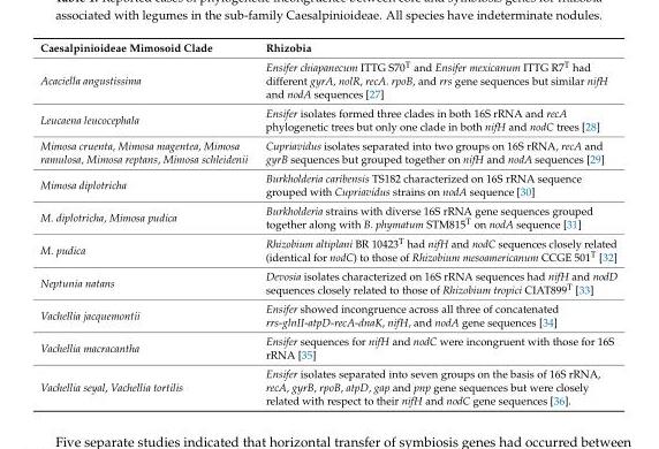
<table><thead><tr><td>Caesalpinioideae Mimosoid Clade</td><td>Rhizobia</td></tr></thead><tbody><tr><td>Acaciella angustissima</td><td>Ensifer chiapanecum ITTG S70<sup>T</sup> and Ensifer mexicanum ITTG R7<sup>T</sup> had different gyrA, nolR, recA. rpoB, and rrs gene sequences but similar nifH and nodA sequences [27]</td></tr><tr><td>Leucaena leucocephala</td><td>Ensifer isolates formed three clades in both 16S rRNA and recA phylogenetic trees but only one clade in both nifH and nodC trees [28]</td></tr><tr><td>Mimosa cruenta, Mimosa magentea, Mimosa ramulosa, Mimosa reptans, Mimosa schleidenii</td><td>Cupriavidus isolates separated into two groups on 16S rRNA, recA and gyrB sequences but grouped together on nifH and nodA sequences [29]</td></tr><tr><td>Mimosa diplotricha</td><td>Burkholderia caribensis TS182 characterized on 16S rRNA sequence grouped with Cupriavidus strains on nodA sequence [30]</td></tr><tr><td>M. diplotricha, Mimosa pudica</td><td>Burkholderia strains with diverse 16S rRNA gene sequences grouped together along with B. phymatum STM815<sup>T</sup> on nodA sequence [31]</td></tr><tr><td>M. pudica</td><td>Rhizobium altiplani BR 10423<sup>T</sup> had nifH and nodC sequences closely related (identical for nodC) to those of Rhizobium mesoamericanum CCGE 501<sup>T</sup> [32]</td></tr><tr><td>Neptunia natans</td><td>Devosia isolates characterized on 16S rRNA sequences had nifH and nodD sequences closely related to those of Rhizobium tropici CIAT899<sup>T</sup> [33]</td></tr><tr><td>Vachellia jacquemontii</td><td>Ensifer showed incongruence across all three of concatenated rrs-glnII-atpD-recA-dnaK, nifH, and nodA gene sequences [34]</td></tr><tr><td>Vachellia macracantha</td><td>Ensifer sequences for nifH and nodC were incongruent with those for 16S rRNA [35]</td></tr><tr><td>Vachellia seyal, Vachellia tortilis</td><td>Ensifer isolates separated into seven groups on the basis of 16S rRNA, recA, gyrB, rpoB, atpD, gap and pnp gene sequences but were closely related with respect to their nifH and nodC gene sequences [36].</td></tr></tbody></table>